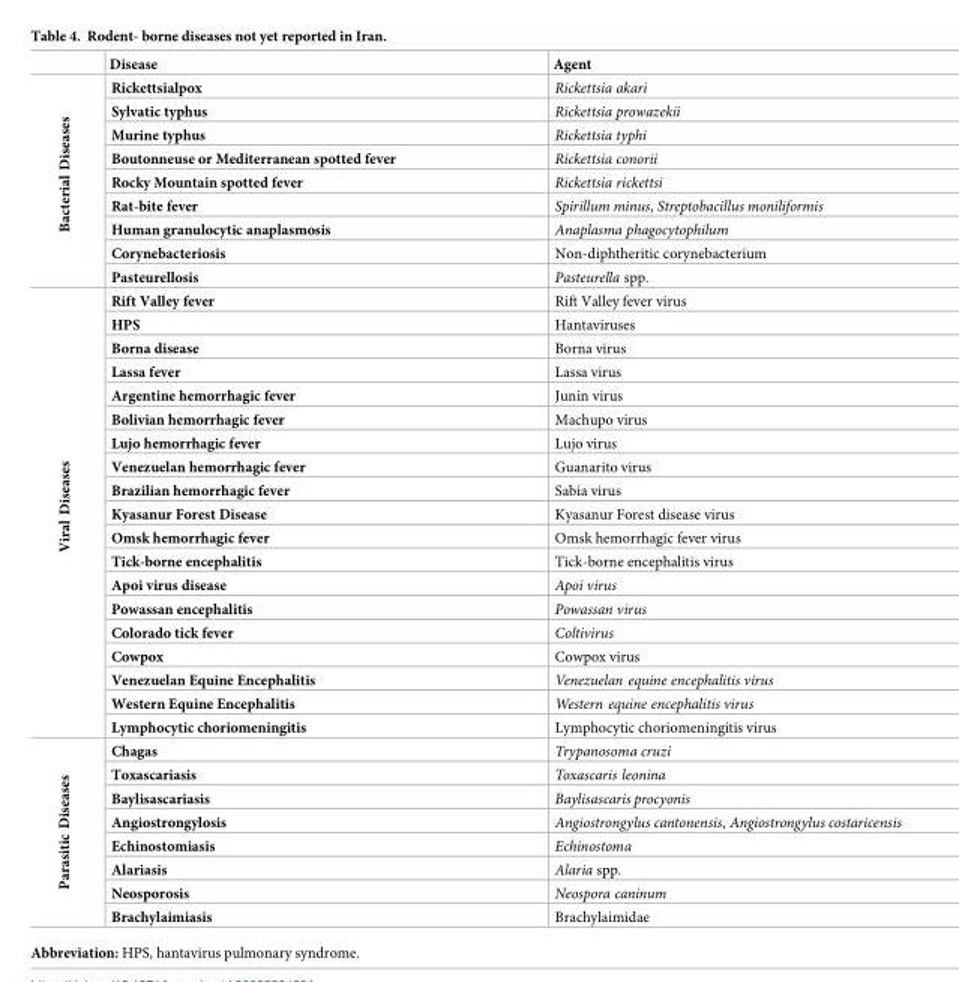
<table><thead><tr><td></td><td>Disease</td><td>Agent</td></tr></thead><tbody><tr><td rowspan="9">Bacterial Diseases</td><td>Rickettsialpox</td><td>Rickettsia akari</td></tr><tr><td>Sylvatic typhus</td><td>Rickettsia prowazekii</td></tr><tr><td>Murine typhus</td><td>Rickettsia typhi</td></tr><tr><td>Boutonneuse or Mediterranean spotted fever</td><td>Rickettsia conorii</td></tr><tr><td>Rocky Mountain spotted fever</td><td>Rickettsia rickettsi</td></tr><tr><td>Rat-bite fever</td><td>Spirillum minus, Streptobacillus moniliformis</td></tr><tr><td>Human granulocytic anaplasmosis</td><td>Anaplasma phagocytophilum</td></tr><tr><td>Corynebacteriosis</td><td>Non-diphtheritic corynebacterium</td></tr><tr><td>Pasteurellosis</td><td>Pasteurella spp.</td></tr><tr><td rowspan="19">Viral Diseases</td><td>Rift Valley fever</td><td>Rift Valley fever virus</td></tr><tr><td>HPS</td><td>Hantaviruses</td></tr><tr><td>Borna disease</td><td>Borna virus</td></tr><tr><td>Lassa fever</td><td>Lassa virus</td></tr><tr><td>Argentine hemorrhagic fever</td><td>Junin virus</td></tr><tr><td>Bolivian hemorrhagic fever</td><td>Machupo virus</td></tr><tr><td>Lujo hemorrhagic fever</td><td>Lujo virus</td></tr><tr><td>Venezuelan hemorrhagic fever</td><td>Guanarito virus</td></tr><tr><td>Brazilian hemorrhagic fever</td><td>Sabia virus</td></tr><tr><td>Kyasanur Forest Disease</td><td>Kyasanur Forest disease virus</td></tr><tr><td>Omsk hemorrhagic fever</td><td>Omsk hemorrhagic fever virus</td></tr><tr><td>Tick-borne encephalitis</td><td>Tick-borne encephalitis virus</td></tr><tr><td>Apoi virus disease</td><td>Apoi virus</td></tr><tr><td>Powassan encephalitis</td><td>Powassan virus</td></tr><tr><td>Colorado tick fever</td><td>Coltivirus</td></tr><tr><td>Cowpox</td><td>Cowpox virus</td></tr><tr><td>Venezuelan Equine Encephalitis</td><td>Venezuelan equine encephalitis virus</td></tr><tr><td>Western Equine Encephalitis</td><td>Western equine encephalitis virus</td></tr><tr><td>Lymphocytic choriomeningitis</td><td>Lymphocytic choriomeningitis virus</td></tr><tr><td rowspan="8">Parasitic Diseases</td><td>Chagas</td><td>Trypanosoma cruzi</td></tr><tr><td>Toxascariasis</td><td>Toxascaris leonina</td></tr><tr><td>Baylisascariasis</td><td>Baylisascaris procyonis</td></tr><tr><td>Angiostrongylosis</td><td>Angiostrongylus cantonensis, Angiostrongylus costaricensis</td></tr><tr><td>Echinostomiasis</td><td>Echinostoma</td></tr><tr><td>Alariasis</td><td>Alaria spp.</td></tr><tr><td>Neosporosis</td><td>Neospora caninum</td></tr><tr><td>Brachylaimiasis</td><td>Brachylaimidae</td></tr></tbody></table>